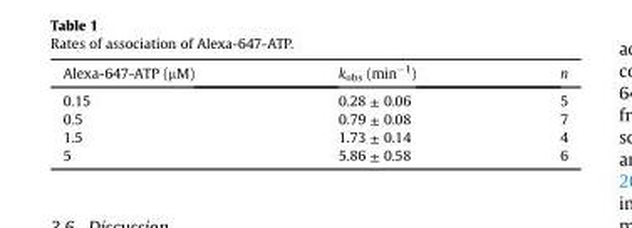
<table><thead><tr><td>Alexa-647-ATP (μM)</td><td>k<sub>obs</sub> (min<sup>−1</sup>)</td><td>n</td></tr></thead><tbody><tr><td>0.15</td><td>0.28 ± 0.06</td><td>5</td></tr><tr><td>0.5</td><td>0.79 ± 0.08</td><td>7</td></tr><tr><td>1.5</td><td>1.73 ± 0.14</td><td>4</td></tr><tr><td>5</td><td>5.86 ± 0.58</td><td>6</td></tr></tbody></table>